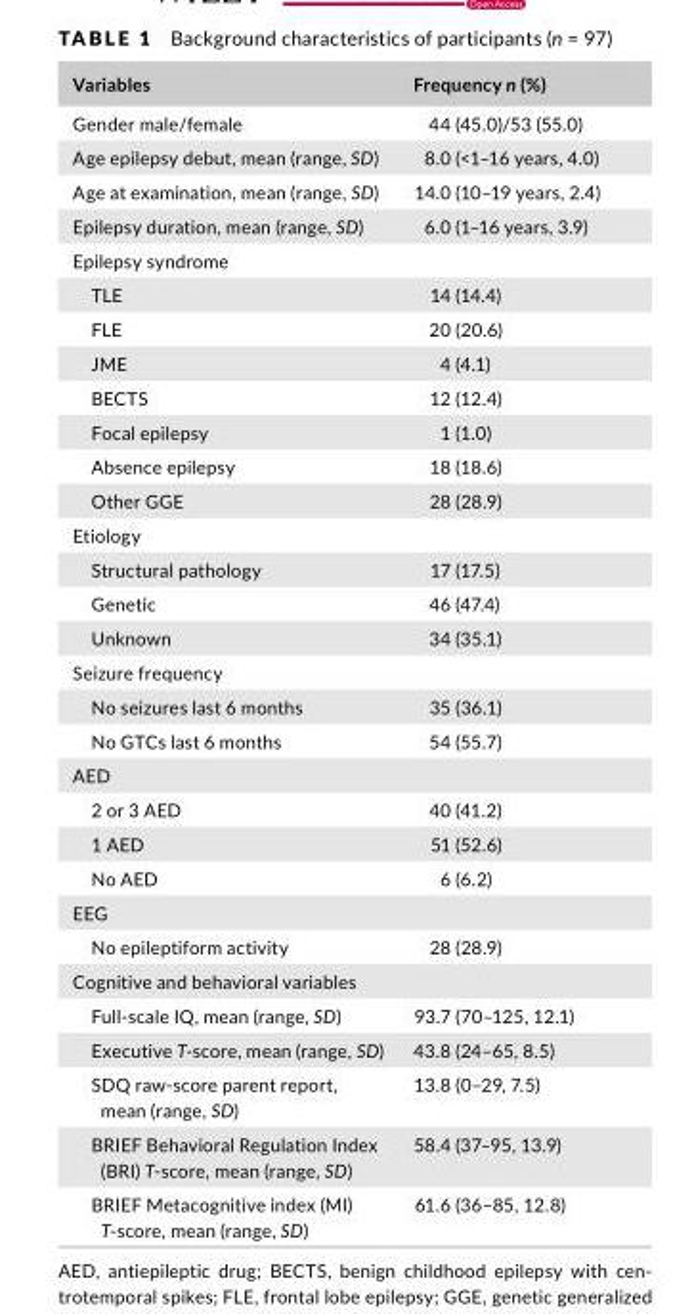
<table><thead><tr><td>Variables</td><td>Frequency n (%)</td></tr></thead><tbody><tr><td>Gender male/female</td><td>44 (45.0)/53 (55.0)</td></tr><tr><td>Age epilepsy debut, mean (range, SD)</td><td>8.0 (&lt;1–16 years, 4.0)</td></tr><tr><td>Age at examination, mean (range, SD)</td><td>14.0 (10–19 years, 2.4)</td></tr><tr><td>Epilepsy duration, mean (range, SD)</td><td>6.0 (1–16 years, 3.9)</td></tr><tr><td colspan="2">Epilepsy syndrome</td></tr><tr><td>TLE</td><td>14 (14.4)</td></tr><tr><td>FLE</td><td>20 (20.6)</td></tr><tr><td>JME</td><td>4 (4.1)</td></tr><tr><td>BECTS</td><td>12 (12.4)</td></tr><tr><td>Focal epilepsy</td><td>1 (1.0)</td></tr><tr><td>Absence epilepsy</td><td>18 (18.6)</td></tr><tr><td>Other GGE</td><td>28 (28.9)</td></tr><tr><td colspan="2">Etiology</td></tr><tr><td>Structural pathology</td><td>17 (17.5)</td></tr><tr><td>Genetic</td><td>46 (47.4)</td></tr><tr><td>Unknown</td><td>34 (35.1)</td></tr><tr><td colspan="2">Seizure frequency</td></tr><tr><td>No seizures last 6 months</td><td>35 (36.1)</td></tr><tr><td>No GTCs last 6 months</td><td>54 (55.7)</td></tr><tr><td colspan="2">AED</td></tr><tr><td>2 or 3 AED</td><td>40 (41.2)</td></tr><tr><td>1 AED</td><td>51 (52.6)</td></tr><tr><td>No AED</td><td>6 (6.2)</td></tr><tr><td colspan="2">EEG</td></tr><tr><td>No epileptiform activity</td><td>28 (28.9)</td></tr><tr><td colspan="2">Cognitive and behavioral variables</td></tr><tr><td>Full- scale IQ, mean (range, SD)</td><td>93.7 (70–125, 12.1)</td></tr><tr><td>Executive T- score, mean (range, SD)</td><td>43.8 (24–65, 8.5)</td></tr><tr><td>SDQ raw- score parent report, mean (range, SD)</td><td>13.8 (0–29, 7.5)</td></tr><tr><td>BRIEF Behavioral Regulation Index (BRI) T- score, mean (range, SD)</td><td>58.4 (37–95, 13.9)</td></tr><tr><td>BRIEF Metacognitive index (MI) T- score, mean (range, SD)</td><td>61.6 (36–85, 12.8)</td></tr></tbody></table>